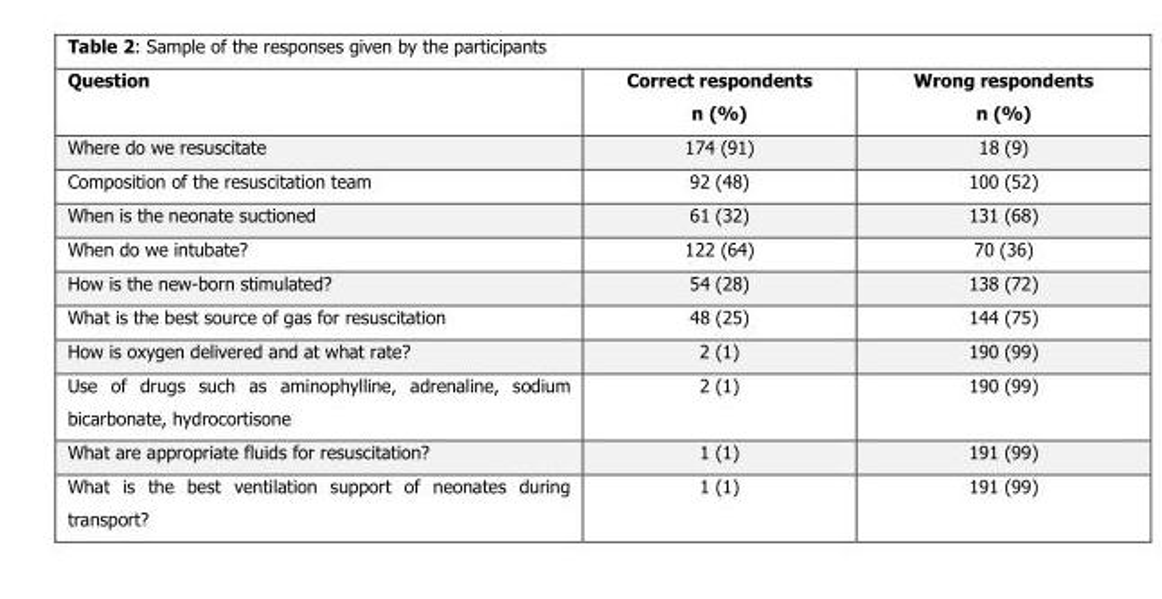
<table><thead><tr><td>Question</td><td>Correct respondents n (%)</td><td>Wrong respondents n (%)</td></tr></thead><tbody><tr><td>Where do we resuscitate</td><td>174 (91)</td><td>18 (9)</td></tr><tr><td>Composition of the resuscitation team</td><td>92 (48)</td><td>100 (52)</td></tr><tr><td>When is the neonate suctioned</td><td>61 (32)</td><td>131 (68)</td></tr><tr><td>When do we intubate?</td><td>122 (64)</td><td>70 (36)</td></tr><tr><td>How is the new-born stimulated?</td><td>54 (28)</td><td>138 (72)</td></tr><tr><td>What is the best source of gas for resuscitation</td><td>48 (25)</td><td>144 (75)</td></tr><tr><td>How is oxygen delivered and at what rate?</td><td>2 (1)</td><td>190 (99)</td></tr><tr><td>Use of drugs such as aminophylline, adrenaline, sodium bicarbonate, hydrocortisone</td><td>2 (1)</td><td>190 (99)</td></tr><tr><td>What are appropriate fluids for resuscitation?</td><td>1 (1)</td><td>191 (99)</td></tr><tr><td>What is the best ventilation support of neonates during transport?</td><td>1 (1)</td><td>191 (99)</td></tr></tbody></table>